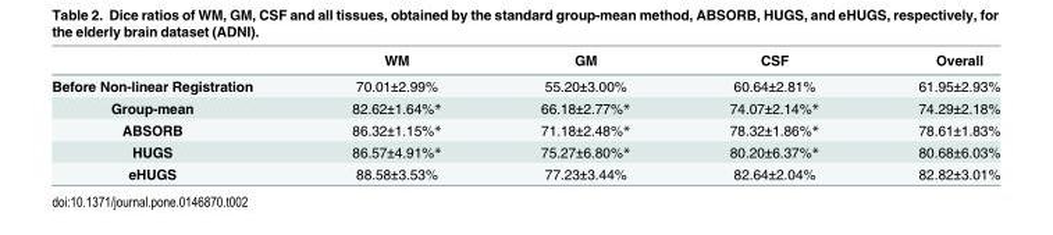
<table><thead><tr><td></td><td>WM</td><td>GM</td><td>CSF</td><td>Overall</td></tr></thead><tbody><tr><td>Before Non-linear Registration</td><td>70.01±2.99%</td><td>55.20±3.00%</td><td>60.64±2.81%</td><td>61.95±2.93%</td></tr><tr><td>Group-mean</td><td>82.62±1.64%*</td><td>66.18±2.77%*</td><td>74.07±2.14%*</td><td>74.29±2.18%</td></tr><tr><td>ABSORB</td><td>86.32±1.15%*</td><td>71.18±2.48%*</td><td>78.32±1.86%*</td><td>78.61±1.83%</td></tr><tr><td>HUGS</td><td>86.57±4.91%*</td><td>75.27±6.80%*</td><td>80.20±6.37%*</td><td>80.68±6.03%</td></tr><tr><td>eHUGS</td><td>88.58±3.53%</td><td>77.23±3.44%</td><td>82.64±2.04%</td><td>82.82±3.01%</td></tr></tbody></table>